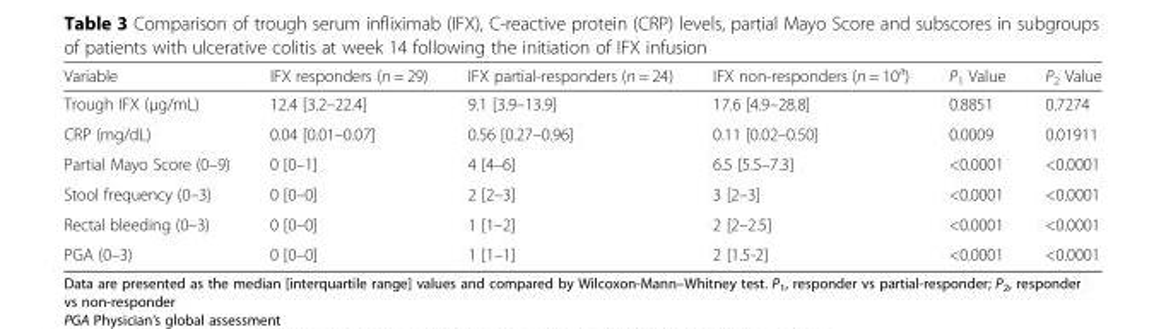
<table><thead><tr><td>Variable</td><td>IFX responders (n = 29)</td><td>IFX partial-responders (n = 24)</td><td>IFX non-responders (n = 10<sup>a</sup>)</td><td>P<sub>1</sub> Value</td><td>P<sub>2</sub> Value</td></tr></thead><tbody><tr><td>Trough IFX (μg/mL)</td><td>12.4 [3.2–22.4]</td><td>9.1 [3.9–13.9]</td><td>17.6 [4.9–28.8]</td><td>0.8851</td><td>0.7274</td></tr><tr><td>CRP (mg/dL)</td><td>0.04 [0.01–0.07]</td><td>0.56 [0.27–0.96]</td><td>0.11 [0.02–0.50]</td><td>0.0009</td><td>0.01911</td></tr><tr><td>Partial Mayo Score (0–9)</td><td>0 [0–1]</td><td>4 [4–6]</td><td>6.5 [5.5–7.3]</td><td>&lt;0.0001</td><td>&lt;0.0001</td></tr><tr><td>Stool frequency (0–3)</td><td>0 [0–0]</td><td>2 [2–3]</td><td>3 [2–3]</td><td>&lt;0.0001</td><td>&lt;0.0001</td></tr><tr><td>Rectal bleeding (0–3)</td><td>0 [0–0]</td><td>1 [1–2]</td><td>2 [2–2.5]</td><td>&lt;0.0001</td><td>&lt;0.0001</td></tr><tr><td>PGA (0–3)</td><td>0 [0–0]</td><td>1 [1–1]</td><td>2 [1.5-2]</td><td>&lt;0.0001</td><td>&lt;0.0001</td></tr></tbody></table>